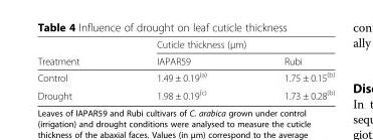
<table><thead><tr><td rowspan="2">Treatment</td><td colspan="2">Cuticle thickness (μm)</td></tr><tr><td>IAPAR59</td><td>Rubi</td></tr></thead><tbody><tr><td>Control</td><td>1.49 ± 0.19<sup>(a)</sup></td><td>1.75 ± 0.15<sup>(b)</sup></td></tr><tr><td>Drought</td><td>1.98 ± 0.19<sup>(c)</sup></td><td>1.73 ± 0.28<sup>(b)</sup></td></tr></tbody></table>